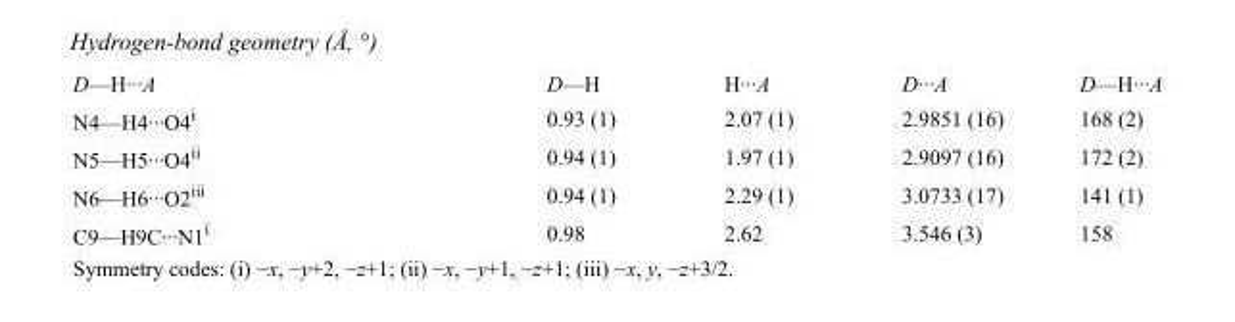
<table><tbody><tr><td>D—H···A</td><td>D—H</td><td>H···A</td><td>D···A</td><td>D—H···A</td></tr><tr><td>N4—H4···O4<sup>i</sup></td><td>0.93 (1)</td><td>2.07 (1)</td><td>2.9851 (16)</td><td>168 (2)</td></tr><tr><td>N5—H5···O4<sup>ii</sup></td><td>0.94 (1)</td><td>1.97 (1)</td><td>2.9097 (16)</td><td>172 (2)</td></tr><tr><td>N6—H6···O2<sup>iii</sup></td><td>0.94 (1)</td><td>2.29 (1)</td><td>3.0733 (17)</td><td>141 (1)</td></tr><tr><td>C9—H9C···N1<sup>i</sup></td><td>0.98</td><td>2.62</td><td>3.546 (3)</td><td>158</td></tr></tbody></table>